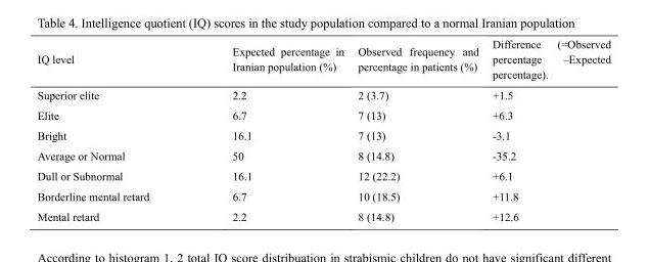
<table><thead><tr><td>IQ level</td><td>Expected percentage in Iranian population (%)</td><td>Observed frequency and percentage in patients (%)</td><td>Difference (=Observed percentage –Expected percentage).</td></tr></thead><tbody><tr><td>Superior elite</td><td>2.2</td><td>2 (3.7)</td><td>+1.5</td></tr><tr><td>Elite</td><td>6.7</td><td>7 (13)</td><td>+6.3</td></tr><tr><td>Bright</td><td>16.1</td><td>7 (13)</td><td>-3.1</td></tr><tr><td>Average or Normal</td><td>50</td><td>8 (14.8)</td><td>-35.2</td></tr><tr><td>Dull or Subnormal</td><td>16.1</td><td>12 (22.2)</td><td>+6.1</td></tr><tr><td>Borderline mental retard</td><td>6.7</td><td>10 (18.5)</td><td>+11.8</td></tr><tr><td>Mental retard</td><td>2.2</td><td>8 (14.8)</td><td>+12.6</td></tr></tbody></table>